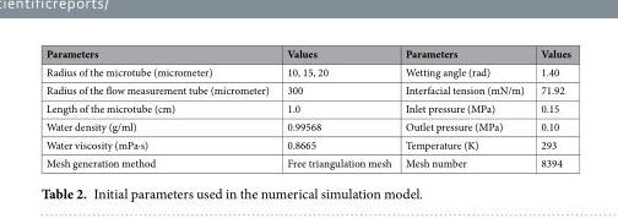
<table><thead><tr><td>Parameters</td><td>Values</td><td>Parameters</td><td>Values</td></tr></thead><tbody><tr><td>Radius of the microtube (micrometer)</td><td>10, 15, 20</td><td>Wetting angle (rad)</td><td>1.40</td></tr><tr><td>Radius of the flow measurement tube (micrometer)</td><td>300</td><td>Interfacial tension (mN/m)</td><td>71.92</td></tr><tr><td>Length of the microtube (cm)</td><td>1.0</td><td>Inlet pressure (MPa)</td><td>0.15</td></tr><tr><td>Water density (g/ml)</td><td>0.99568</td><td>Outlet pressure (MPa)</td><td>0.10</td></tr><tr><td>Water viscosity (mPa·s)</td><td>0.8665</td><td>Temperature (K)</td><td>293</td></tr><tr><td>Mesh generation method</td><td>Free triangulation mesh</td><td>Mesh number</td><td>8394</td></tr></tbody></table>